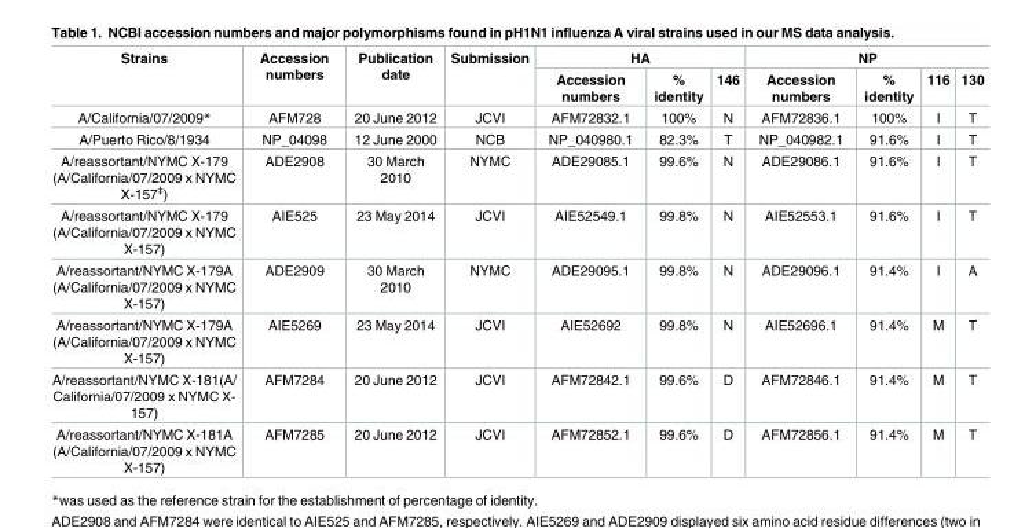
<table><thead><tr><td rowspan="2">Strains</td><td rowspan="2">Accession numbers</td><td rowspan="2">Publication date</td><td rowspan="2">Submission</td><td colspan="3">HA</td><td colspan="4">NP</td></tr><tr><td>Accession numbers</td><td>% identity</td><td>146</td><td>Accession numbers</td><td>% identity</td><td>116</td><td>130</td></tr></thead><tbody><tr><td>A/California/07/2009*</td><td>AFM728</td><td>20 June 2012</td><td>JCVI</td><td>AFM72832.1</td><td>100%</td><td>N</td><td>AFM72836.1</td><td>100%</td><td>I</td><td>T</td></tr><tr><td>A/Puerto Rico/8/1934</td><td>NP_04098</td><td>12 June 2000</td><td>NCB</td><td>NP_040980.1</td><td>82.3%</td><td>T</td><td>NP_040982.1</td><td>91.6%</td><td>I</td><td>T</td></tr><tr><td>A/reassortant/NYMC X-179 (A/California/07/2009 x NYMC X-157<sup>‡</sup>)</td><td>ADE2908</td><td>30 March 2010</td><td>NYMC</td><td>ADE29085.1</td><td>99.6%</td><td>N</td><td>ADE29086.1</td><td>91.6%</td><td>I</td><td>T</td></tr><tr><td>A/reassortant/NYMC X-179 (A/California/07/2009 x NYMC X-157)</td><td>AIE525</td><td>23 May 2014</td><td>JCVI</td><td>AIE52549.1</td><td>99.8%</td><td>N</td><td>AIE52553.1</td><td>91.6%</td><td>I</td><td>T</td></tr><tr><td>A/reassortant/NYMC X-179A (A/California/07/2009 x NYMC X-157)</td><td>ADE2909</td><td>30 March 2010</td><td>NYMC</td><td>ADE29095.1</td><td>99.8%</td><td>N</td><td>ADE29096.1</td><td>91.4%</td><td>I</td><td>A</td></tr><tr><td>A/reassortant/NYMC X-179A (A/California/07/2009 x NYMC X-157)</td><td>AIE5269</td><td>23 May 2014</td><td>JCVI</td><td>AIE52692</td><td>99.8%</td><td>N</td><td>AIE52696.1</td><td>91.4%</td><td>M</td><td>T</td></tr><tr><td>A/reassortant/NYMC X-181(A/ California/07/2009 x NYMC X- 157)</td><td>AFM7284</td><td>20 June 2012</td><td>JCVI</td><td>AFM72842.1</td><td>99.6%</td><td>D</td><td>AFM72846.1</td><td>91.4%</td><td>M</td><td>T</td></tr><tr><td>A/reassortant/NYMC X-181A (A/California/07/2009 x NYMC X-157)</td><td>AFM7285</td><td>20 June 2012</td><td>JCVI</td><td>AFM72852.1</td><td>99.6%</td><td>D</td><td>AFM72856.1</td><td>91.4%</td><td>M</td><td>T</td></tr></tbody></table>